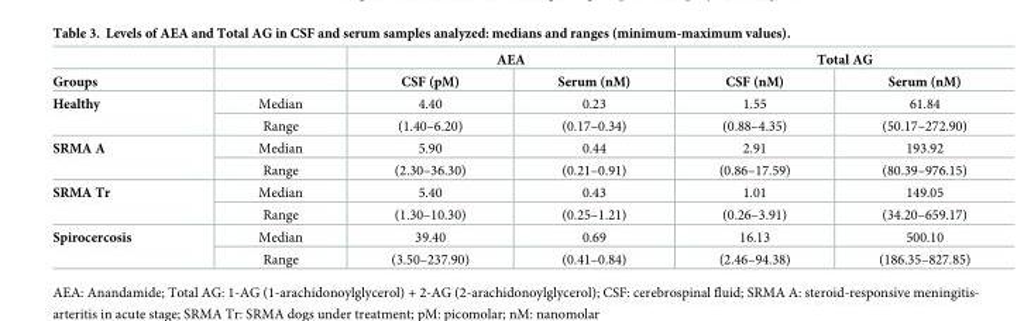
<table><thead><tr><td rowspan="2">Groups</td><td rowspan="2"></td><td colspan="2">AEA</td><td colspan="2">Total AG</td></tr><tr><td>CSF (pM)</td><td>Serum (nM)</td><td>CSF (nM)</td><td>Serum (nM)</td></tr></thead><tbody><tr><td rowspan="2">Healthy</td><td>Median</td><td>4.40</td><td>0.23</td><td>1.55</td><td>61.84</td></tr><tr><td>Range</td><td>(1.40–6.20)</td><td>(0.17–0.34)</td><td>(0.88–4.35)</td><td>(50.17–272.90)</td></tr><tr><td rowspan="2">SRMA A</td><td>Median</td><td>5.90</td><td>0.44</td><td>2.91</td><td>193.92</td></tr><tr><td>Range</td><td>(2.30–36.30)</td><td>(0.21–0.91)</td><td>(0.86–17.59)</td><td>(80.39–976.15)</td></tr><tr><td rowspan="2">SRMA Tr</td><td>Median</td><td>5.40</td><td>0.43</td><td>1.01</td><td>149.05</td></tr><tr><td>Range</td><td>(1.30–10.30)</td><td>(0.25–1.21)</td><td>(0.26–3.91)</td><td>(34.20–659.17)</td></tr><tr><td rowspan="2">Spirocercosis</td><td>Median</td><td>39.40</td><td>0.69</td><td>16.13</td><td>500.10</td></tr><tr><td>Range</td><td>(3.50–237.90)</td><td>(0.41–0.84)</td><td>(2.46–94.38)</td><td>(186.35–827.85)</td></tr></tbody></table>